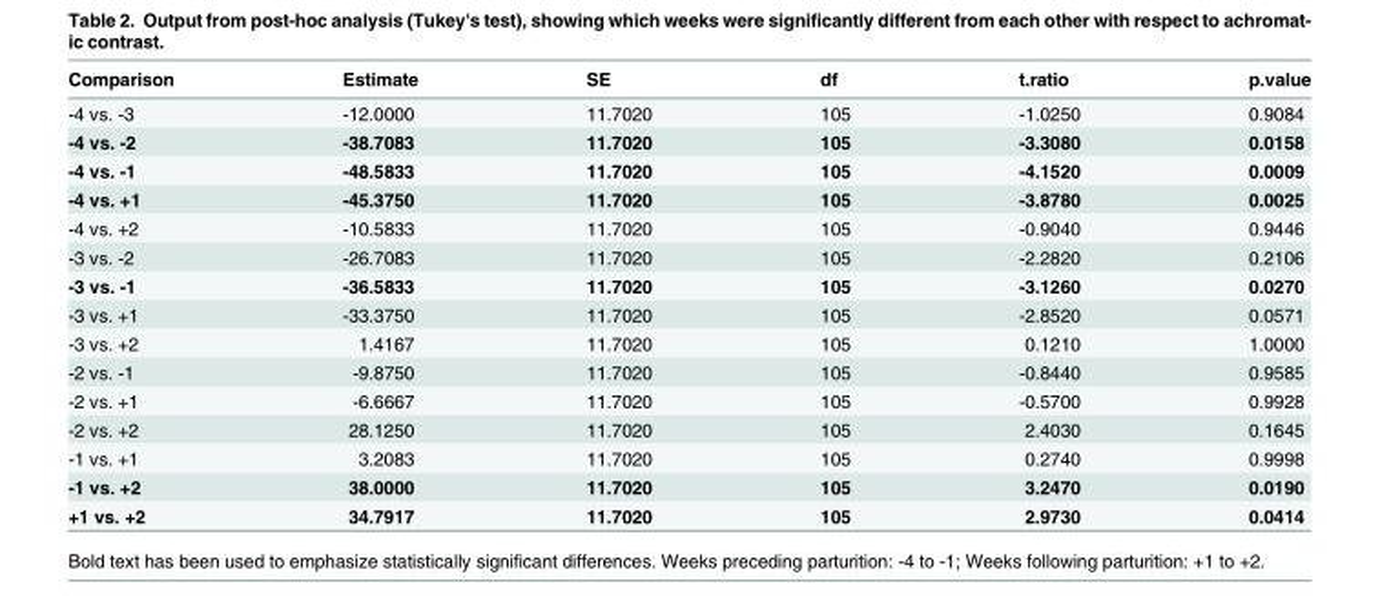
<table><thead><tr><td>Comparison</td><td>Estimate</td><td>SE</td><td>df</td><td>t.ratio</td><td>p.value</td></tr></thead><tbody><tr><td>-4 vs. -3</td><td>-12.0000</td><td>11.7020</td><td>105</td><td>-1.0250</td><td>0.9084</td></tr><tr><td>-4 vs. -2</td><td>-38.7083</td><td>11.7020</td><td>105</td><td>-3.3080</td><td>0.0158</td></tr><tr><td>-4 vs. -1</td><td>-48.5833</td><td>11.7020</td><td>105</td><td>-4.1520</td><td>0.0009</td></tr><tr><td>-4 vs. +1</td><td>-45.3750</td><td>11.7020</td><td>105</td><td>-3.8780</td><td>0.0025</td></tr><tr><td>-4 vs. +2</td><td>-10.5833</td><td>11.7020</td><td>105</td><td>-0.9040</td><td>0.9446</td></tr><tr><td>-3 vs. -2</td><td>-26.7083</td><td>11.7020</td><td>105</td><td>-2.2820</td><td>0.2106</td></tr><tr><td>-3 vs. -1</td><td>-36.5833</td><td>11.7020</td><td>105</td><td>-3.1260</td><td>0.0270</td></tr><tr><td>-3 vs. +1</td><td>-33.3750</td><td>11.7020</td><td>105</td><td>-2.8520</td><td>0.0571</td></tr><tr><td>-3 vs. +2</td><td>1.4167</td><td>11.7020</td><td>105</td><td>0.1210</td><td>1.0000</td></tr><tr><td>-2 vs. -1</td><td>-9.8750</td><td>11.7020</td><td>105</td><td>-0.8440</td><td>0.9585</td></tr><tr><td>-2 vs. +1</td><td>-6.6667</td><td>11.7020</td><td>105</td><td>-0.5700</td><td>0.9928</td></tr><tr><td>-2 vs. +2</td><td>28.1250</td><td>11.7020</td><td>105</td><td>2.4030</td><td>0.1645</td></tr><tr><td>-1 vs. +1</td><td>3.2083</td><td>11.7020</td><td>105</td><td>0.2740</td><td>0.9998</td></tr><tr><td>-1 vs. +2</td><td>38.0000</td><td>11.7020</td><td>105</td><td>3.2470</td><td>0.0190</td></tr><tr><td>+1 vs. +2</td><td>34.7917</td><td>11.7020</td><td>105</td><td>2.9730</td><td>0.0414</td></tr></tbody></table>